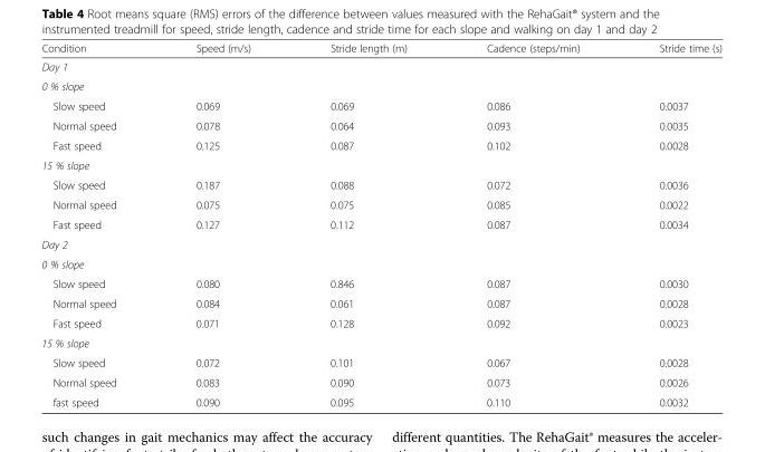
<table><thead><tr><td>Condition</td><td>Speed (m/s)</td><td>Stride length (m)</td><td>Cadence (steps/min)</td><td>Stride time (s)</td></tr></thead><tbody><tr><td colspan="5">Day 1</td></tr><tr><td colspan="5">0 % slope</td></tr><tr><td>Slow speed</td><td>0.069</td><td>0.069</td><td>0.086</td><td>0.0037</td></tr><tr><td>Normal speed</td><td>0.078</td><td>0.064</td><td>0.093</td><td>0.0035</td></tr><tr><td>Fast speed</td><td>0.125</td><td>0.087</td><td>0.102</td><td>0.0028</td></tr><tr><td colspan="5">15 % slope</td></tr><tr><td>Slow speed</td><td>0.187</td><td>0.088</td><td>0.072</td><td>0.0036</td></tr><tr><td>Normal speed</td><td>0.075</td><td>0.075</td><td>0.085</td><td>0.0022</td></tr><tr><td>Fast speed</td><td>0.127</td><td>0.112</td><td>0.087</td><td>0.0034</td></tr><tr><td colspan="5">Day 2</td></tr><tr><td colspan="5">0 % slope</td></tr><tr><td>Slow speed</td><td>0.080</td><td>0.846</td><td>0.087</td><td>0.0030</td></tr><tr><td>Normal speed</td><td>0.084</td><td>0.061</td><td>0.087</td><td>0.0028</td></tr><tr><td>Fast speed</td><td>0.071</td><td>0.128</td><td>0.092</td><td>0.0023</td></tr><tr><td colspan="5">15 % slope</td></tr><tr><td>Slow speed</td><td>0.072</td><td>0.101</td><td>0.067</td><td>0.0028</td></tr><tr><td>Normal speed</td><td>0.083</td><td>0.090</td><td>0.073</td><td>0.0026</td></tr><tr><td>fast speed</td><td>0.090</td><td>0.095</td><td>0.110</td><td>0.0032</td></tr></tbody></table>